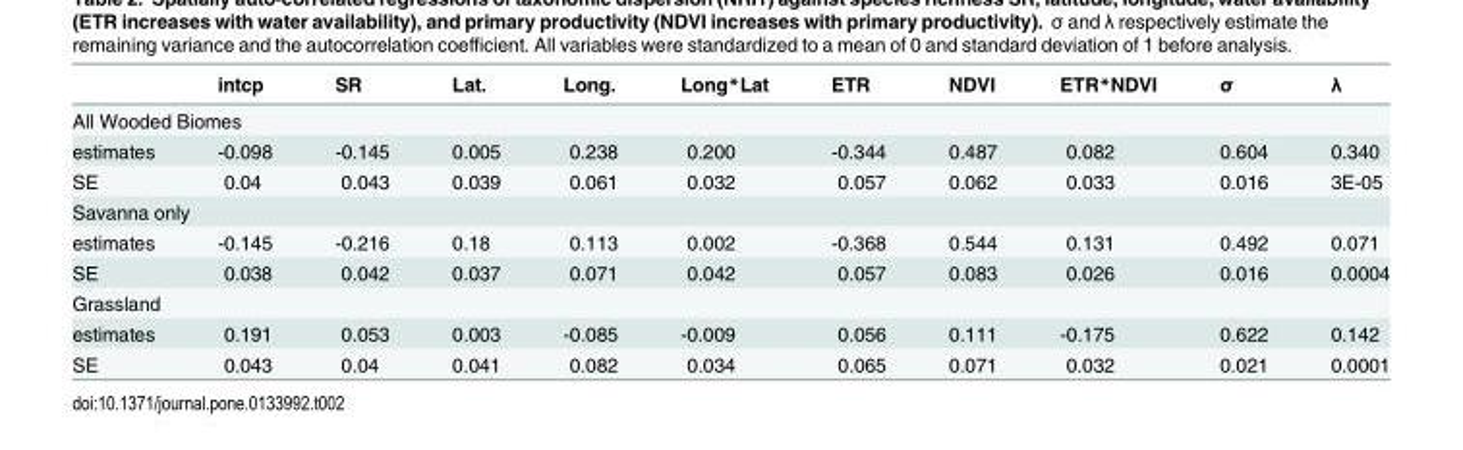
<table><thead><tr><td></td><td>intcp</td><td>SR</td><td>Lat.</td><td>Long.</td><td>Long*Lat</td><td>ETR</td><td>NDVI</td><td>ETR*NDVI</td><td>σ</td><td>λ</td></tr></thead><tbody><tr><td colspan="11">All Wooded Biomes</td></tr><tr><td>estimates</td><td>-0.098</td><td>-0.145</td><td>0.005</td><td>0.238</td><td>0.200</td><td>-0.344</td><td>0.487</td><td>0.082</td><td>0.604</td><td>0.340</td></tr><tr><td>SE</td><td>0.04</td><td>0.043</td><td>0.039</td><td>0.061</td><td>0.032</td><td>0.057</td><td>0.062</td><td>0.033</td><td>0.016</td><td>3E-05</td></tr><tr><td colspan="11">Savanna only</td></tr><tr><td>estimates</td><td>-0.145</td><td>-0.216</td><td>0.18</td><td>0.113</td><td>0.002</td><td>-0.368</td><td>0.544</td><td>0.131</td><td>0.492</td><td>0.071</td></tr><tr><td>SE</td><td>0.038</td><td>0.042</td><td>0.037</td><td>0.071</td><td>0.042</td><td>0.057</td><td>0.083</td><td>0.026</td><td>0.016</td><td>0.0004</td></tr><tr><td colspan="11">Grassland</td></tr><tr><td>estimates</td><td>0.191</td><td>0.053</td><td>0.003</td><td>-0.085</td><td>-0.009</td><td>0.056</td><td>0.111</td><td>-0.175</td><td>0.622</td><td>0.142</td></tr><tr><td>SE</td><td>0.043</td><td>0.04</td><td>0.041</td><td>0.082</td><td>0.034</td><td>0.065</td><td>0.071</td><td>0.032</td><td>0.021</td><td>0.0001</td></tr></tbody></table>